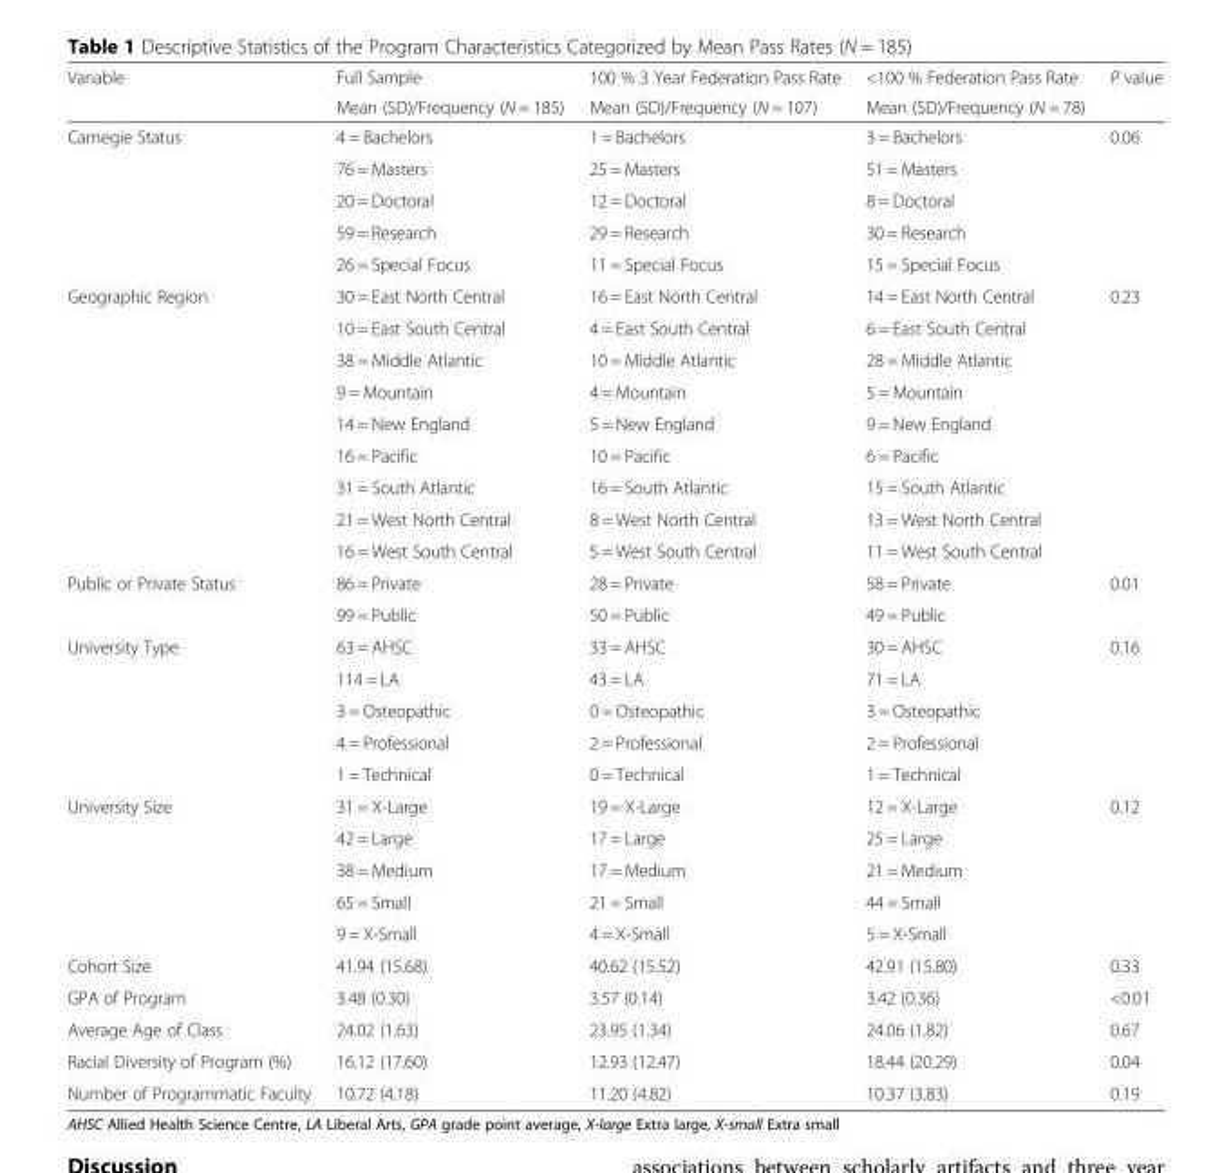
<table><thead><tr><td rowspan="2">Variable</td><td rowspan="2">Full Sample Mean (SD)/Frequency (N = 185)</td><td rowspan="2">100 % 3 Year Federation Pass Rate Mean (SD)/Frequency (N = 107)</td><td rowspan="2">&lt;100 % Federation Pass Rate Mean (SD)/Frequency (N = 78)</td><td rowspan="2">P value</td></tr><tr></tr></thead><tbody><tr><td rowspan="5">Carnegie Status</td><td>4 = Bachelors</td><td>1 = Bachelors</td><td>3 = Bachelors</td><td rowspan="5">0.06</td></tr><tr><td>76 = Masters</td><td>25 = Masters</td><td>51 = Masters</td></tr><tr><td>20 = Doctoral</td><td>12 = Doctoral</td><td>8 = Doctoral</td></tr><tr><td>59 = Research</td><td>29 = Research</td><td>30 = Research</td></tr><tr><td>26 = Special Focus</td><td>11 = Special Focus</td><td>15 = Special Focus</td></tr><tr><td rowspan="9">Geographic Region</td><td>30 = East North Central</td><td>16 = East North Central</td><td>14 = East North Central</td><td rowspan="9">0.23</td></tr><tr><td>10 = East South Central</td><td>4 = East South Central</td><td>6 = East South Central</td></tr><tr><td>38 = Middle Atlantic</td><td>10 = Middle Atlantic</td><td>28 = Middle Atlantic</td></tr><tr><td>9 = Mountain</td><td>4 = Mountain</td><td>5 = Mountain</td></tr><tr><td>14 = New England</td><td>5 = New England</td><td>9 = New England</td></tr><tr><td>16 = Pacific</td><td>10 = Pacific</td><td>6 = Pacific</td></tr><tr><td>31 = South Atlantic</td><td>16 = South Atlantic</td><td>15 = South Atlantic</td></tr><tr><td>21 = West North Central</td><td>8 = West North Central</td><td>13 = West North Central</td></tr><tr><td>16 = West South Central</td><td>5 = West South Central</td><td>11 = West South Central</td></tr><tr><td rowspan="2">Public or Private Status</td><td>86 = Private</td><td>28 = Private</td><td>58 = Private</td><td rowspan="2">0.01</td></tr><tr><td>99 = Public</td><td>50 = Public</td><td>49 = Public</td></tr><tr><td rowspan="5">University Type</td><td>63 = AHSC</td><td>33 = AHSC</td><td>30 = AHSC</td><td rowspan="5">0.16</td></tr><tr><td>114 = LA</td><td>43 = LA</td><td>71 = LA</td></tr><tr><td>3 = Osteopathic</td><td>0 = Osteopathic</td><td>3 = Osteopathic</td></tr><tr><td>4 = Professional</td><td>2 = Professional</td><td>2 = Professional</td></tr><tr><td>1 = Technical</td><td>0 = Technical</td><td>1 = Technical</td></tr><tr><td rowspan="5">University Size</td><td>31 = X-Large</td><td>19 = X-Large</td><td>12 = X-Large</td><td rowspan="5">0.12</td></tr><tr><td>42 = Large</td><td>17 = Large</td><td>25 = Large</td></tr><tr><td>38 = Medium</td><td>17 = Medium</td><td>21 = Medium</td></tr><tr><td>65 = Small</td><td>21 = Small</td><td>44 = Small</td></tr><tr><td>9 = X-Small</td><td>4 = X-Small</td><td>5 = X-Small</td></tr><tr><td>Cohort Size</td><td>41.94 (15.68)</td><td>40.62 (15.52)</td><td>42.91 (15.80)</td><td>0.33</td></tr><tr><td>GPA of Program</td><td>3.48 (0.30)</td><td>3.57 (0.14)</td><td>3.42 (0.36)</td><td>&lt;0.01</td></tr><tr><td>Average Age of Class</td><td>24.02 (1.63)</td><td>23.95 (1.34)</td><td>24.06 (1.82)</td><td>0.67</td></tr><tr><td>Racial Diversity of Program (%)</td><td>16.12 (17.60)</td><td>12.93 (12.47)</td><td>18.44 (20.29)</td><td>0.04</td></tr><tr><td>Number of Programmatic Faculty</td><td>10.72 (4.18)</td><td>11.20 (4.82)</td><td>10.37 (3.83)</td><td>0.19</td></tr></tbody></table>